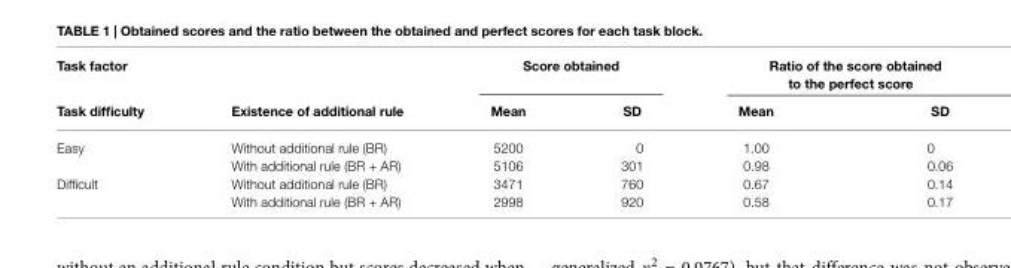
<table><thead><tr><td rowspan="2">Task factor Task difficulty</td><td rowspan="2">Existence of additional rule</td><td colspan="2">Score obtained</td><td colspan="2">Ratio of the score obtained to the perfect score</td></tr><tr><td>Mean</td><td>SD</td><td>Mean</td><td>SD</td></tr></thead><tbody><tr><td rowspan="2">Easy</td><td>Without additional rule (BR)</td><td>5200</td><td>0</td><td>1.00</td><td>0</td></tr><tr><td>With additional rule (BR + AR)</td><td>5106</td><td>301</td><td>0.98</td><td>0.06</td></tr><tr><td rowspan="2">Difficult</td><td>Without additional rule (BR)</td><td>3471</td><td>760</td><td>0.67</td><td>0.14</td></tr><tr><td>With additional rule (BR + AR)</td><td>2998</td><td>920</td><td>0.58</td><td>0.17</td></tr></tbody></table>